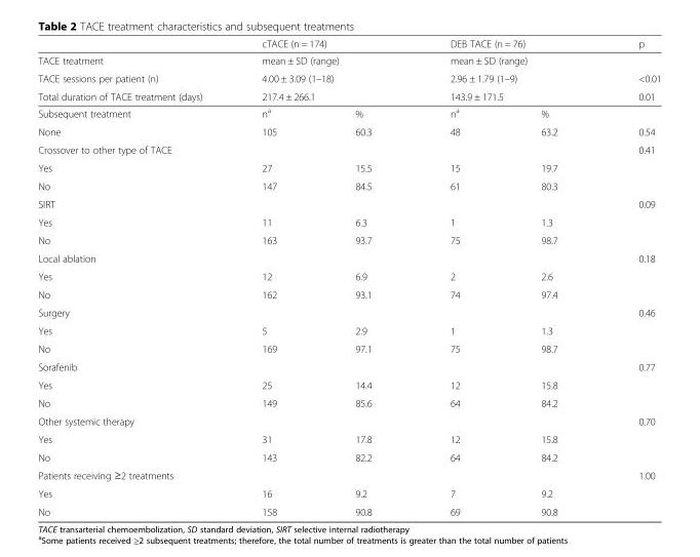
<table><thead><tr><td></td><td colspan="2">cTACE (n = 174)</td><td colspan="2">DEB TACE (n = 76)</td><td>p</td></tr></thead><tbody><tr><td>TACE treatment</td><td colspan="2">mean ± SD (range)</td><td colspan="2">mean ± SD (range)</td><td></td></tr><tr><td>TACE sessions per patient (n)</td><td colspan="2">4.00 ± 3.09 (1–18)</td><td colspan="2">2.96 ± 1.79 (1–9)</td><td>&lt;0.01</td></tr><tr><td>Total duration of TACE treatment (days)</td><td colspan="2">217.4 ± 266.1</td><td colspan="2">143.9 ± 171.5</td><td>0.01</td></tr><tr><td>Subsequent treatment</td><td>n<sup>a</sup></td><td>%</td><td>n<sup>a</sup></td><td>%</td><td></td></tr><tr><td>None</td><td>105</td><td>60.3</td><td>48</td><td>63.2</td><td>0.54</td></tr><tr><td>Crossover to other type of TACE</td><td></td><td></td><td></td><td></td><td>0.41</td></tr><tr><td>Yes</td><td>27</td><td>15.5</td><td>15</td><td>19.7</td><td></td></tr><tr><td>No</td><td>147</td><td>84.5</td><td>61</td><td>80.3</td><td></td></tr><tr><td>SIRT</td><td></td><td></td><td></td><td></td><td>0.09</td></tr><tr><td>Yes</td><td>11</td><td>6.3</td><td>1</td><td>1.3</td><td></td></tr><tr><td>No</td><td>163</td><td>93.7</td><td>75</td><td>98.7</td><td></td></tr><tr><td>Local ablation</td><td></td><td></td><td></td><td></td><td>0.18</td></tr><tr><td>Yes</td><td>12</td><td>6.9</td><td>2</td><td>2.6</td><td></td></tr><tr><td>No</td><td>162</td><td>93.1</td><td>74</td><td>97.4</td><td></td></tr><tr><td>Surgery</td><td></td><td></td><td></td><td></td><td>0.46</td></tr><tr><td>Yes</td><td>5</td><td>2.9</td><td>1</td><td>1.3</td><td></td></tr><tr><td>No</td><td>169</td><td>97.1</td><td>75</td><td>98.7</td><td></td></tr><tr><td>Sorafenib</td><td></td><td></td><td></td><td></td><td>0.77</td></tr><tr><td>Yes</td><td>25</td><td>14.4</td><td>12</td><td>15.8</td><td></td></tr><tr><td>No</td><td>149</td><td>85.6</td><td>64</td><td>84.2</td><td></td></tr><tr><td>Other systemic therapy</td><td></td><td></td><td></td><td></td><td>0.70</td></tr><tr><td>Yes</td><td>31</td><td>17.8</td><td>12</td><td>15.8</td><td></td></tr><tr><td>No</td><td>143</td><td>82.2</td><td>64</td><td>84.2</td><td></td></tr><tr><td>Patients receiving ≥2 treatments</td><td></td><td></td><td></td><td></td><td>1.00</td></tr><tr><td>Yes</td><td>16</td><td>9.2</td><td>7</td><td>9.2</td><td></td></tr><tr><td>No</td><td>158</td><td>90.8</td><td>69</td><td>90.8</td><td></td></tr></tbody></table>